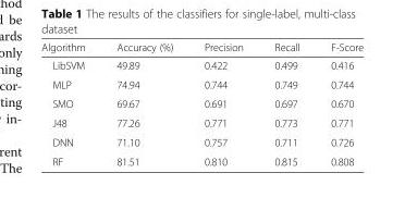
<table><thead><tr><td>Algorithm</td><td>Accuracy (%)</td><td>Precision</td><td>Recall</td><td>F-Score</td></tr></thead><tbody><tr><td>LibSVM</td><td>49.89</td><td>0.422</td><td>0.499</td><td>0.416</td></tr><tr><td>MLP</td><td>74.94</td><td>0.744</td><td>0.749</td><td>0.744</td></tr><tr><td>SMO</td><td>69.67</td><td>0.691</td><td>0.697</td><td>0.670</td></tr><tr><td>J48</td><td>77.26</td><td>0.771</td><td>0.773</td><td>0.771</td></tr><tr><td>DNN</td><td>71.10</td><td>0.757</td><td>0.711</td><td>0.726</td></tr><tr><td>RF</td><td>81.51</td><td>0.810</td><td>0.815</td><td>0.808</td></tr></tbody></table>